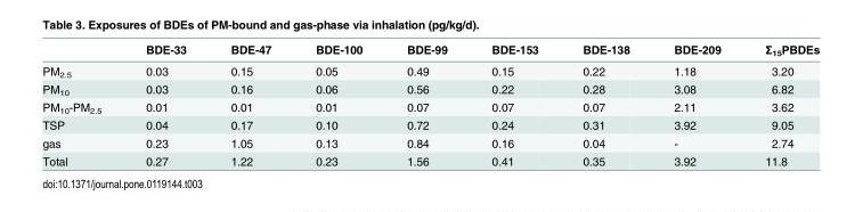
<table><thead><tr><td></td><td>BDE-33</td><td>BDE-47</td><td>BDE-100</td><td>BDE-99</td><td>BDE-153</td><td>BDE-138</td><td>BDE-209</td><td>Σ<sub>15</sub>PBDEs</td></tr></thead><tbody><tr><td>PM<sub>2.5</sub></td><td>0.03</td><td>0.15</td><td>0.05</td><td>0.49</td><td>0.15</td><td>0.22</td><td>1.18</td><td>3.20</td></tr><tr><td>PM<sub>10</sub></td><td>0.03</td><td>0.16</td><td>0.06</td><td>0.56</td><td>0.22</td><td>0.28</td><td>3.08</td><td>6.82</td></tr><tr><td>PM<sub>10</sub>-PM<sub>2.5</sub></td><td>0.01</td><td>0.01</td><td>0.01</td><td>0.07</td><td>0.07</td><td>0.07</td><td>2.11</td><td>3.62</td></tr><tr><td>TSP</td><td>0.04</td><td>0.17</td><td>0.10</td><td>0.72</td><td>0.24</td><td>0.31</td><td>3.92</td><td>9.05</td></tr><tr><td>gas</td><td>0.23</td><td>1.05</td><td>0.13</td><td>0.84</td><td>0.16</td><td>0.04</td><td>-</td><td>2.74</td></tr><tr><td>Total</td><td>0.27</td><td>1.22</td><td>0.23</td><td>1.56</td><td>0.41</td><td>0.35</td><td>3.92</td><td>11.8</td></tr></tbody></table>